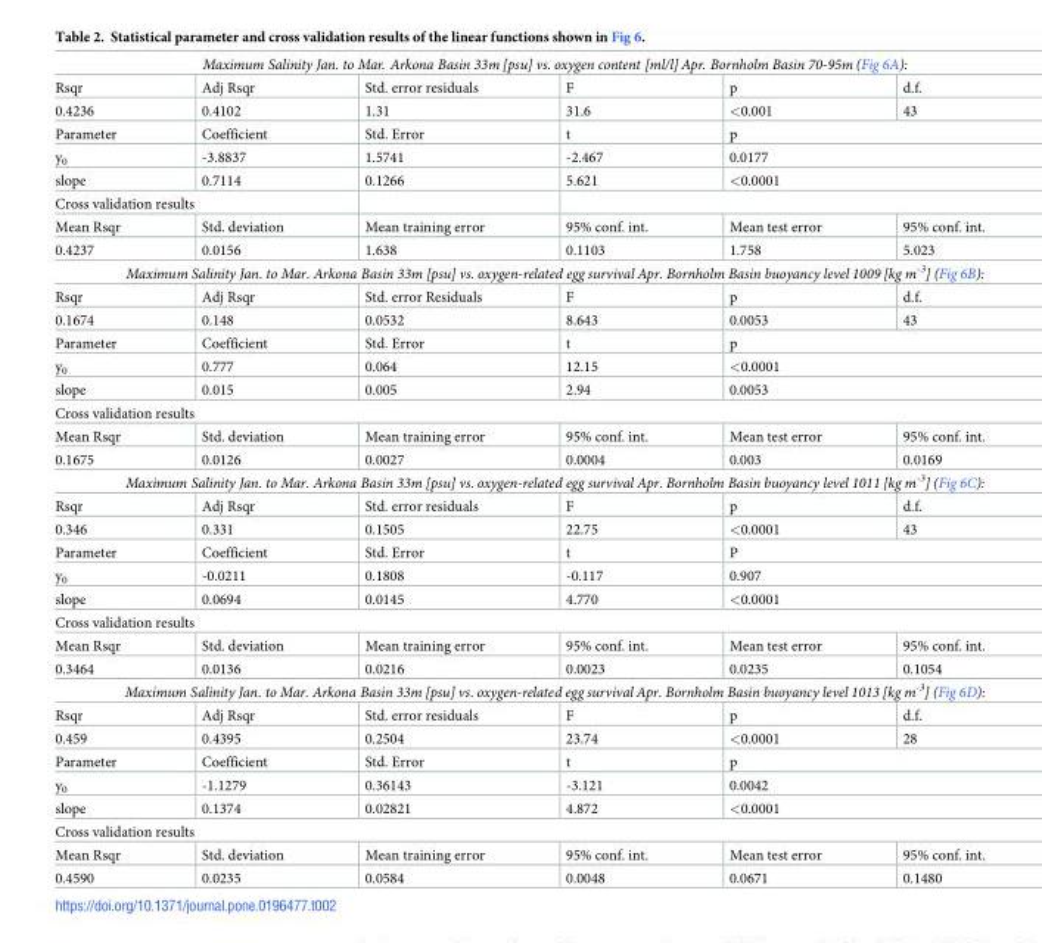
<table><tbody><tr><td colspan="6">Maximum Salinity Jan. to Mar. Arkona Basin 33m [psu] vs. oxygen content [ml/l] Apr. Bornholm Basin 70-95m (Fig 6A):</td></tr><tr><td>Rsqr</td><td>Adj Rsqr</td><td>Std. error residuals</td><td>F</td><td>p</td><td>d.f.</td></tr><tr><td>0.4236</td><td>0.4102</td><td>1.31</td><td>31.6</td><td>&lt;0.001</td><td>43</td></tr><tr><td>Parameter</td><td>Coefficient</td><td>Std. Error</td><td>t</td><td colspan="2">p</td></tr><tr><td>y<sub>0</sub></td><td>-3.8837</td><td>1.5741</td><td>-2.467</td><td colspan="2">0.0177</td></tr><tr><td>slope</td><td>0.7114</td><td>0.1266</td><td>5.621</td><td colspan="2">&lt;0.0001</td></tr><tr><td colspan="6">Cross validation results</td></tr><tr><td>Mean Rsqr</td><td>Std. deviation</td><td>Mean training error</td><td>95% conf. int.</td><td>Mean test error</td><td>95% conf. int.</td></tr><tr><td>0.4237</td><td>0.0156</td><td>1.638</td><td>0.1103</td><td>1.758</td><td>5.023</td></tr><tr><td colspan="6">Maximum Salinity Jan. to Mar. Arkona Basin 33m [psu] vs. oxygen-related egg survival Apr. Bornholm Basin buoyancy level 1009 [kg m<sup>-3</sup>] (Fig 6B):</td></tr><tr><td>Rsqr</td><td>Adj Rsqr</td><td>Std. error Residuals</td><td>F</td><td>p</td><td>d.f.</td></tr><tr><td>0.1674</td><td>0.148</td><td>0.0532</td><td>8.643</td><td>0.0053</td><td>43</td></tr><tr><td>Parameter</td><td>Coefficient</td><td>Std. Error</td><td>t</td><td colspan="2">p</td></tr><tr><td>y<sub>0</sub></td><td>0.777</td><td>0.064</td><td>12.15</td><td colspan="2">&lt;0.0001</td></tr><tr><td>slope</td><td>0.015</td><td>0.005</td><td>2.94</td><td colspan="2">0.0053</td></tr><tr><td colspan="6">Cross validation results</td></tr><tr><td>Mean Rsqr</td><td>Std. deviation</td><td>Mean training error</td><td>95% conf. int.</td><td>Mean test error</td><td>95% conf. int.</td></tr><tr><td>0.1675</td><td>0.0126</td><td>0.0027</td><td>0.0004</td><td>0.003</td><td>0.0169</td></tr><tr><td colspan="6">Maximum Salinity Jan. to Mar. Arkona Basin 33m [psu] vs. oxygen-related egg survival Apr. Bornholm Basin buoyancy level 1011 [kg m<sup>-3</sup>] (Fig 6C):</td></tr><tr><td>Rsqr</td><td>Adj Rsqr</td><td>Std. error residuals</td><td>F</td><td>p</td><td>d.f.</td></tr><tr><td>0.346</td><td>0.331</td><td>0.1505</td><td>22.75</td><td>&lt;0.0001</td><td>43</td></tr><tr><td>Parameter</td><td>Coefficient</td><td>Std. Error</td><td>t</td><td colspan="2">P</td></tr><tr><td>y<sub>0</sub></td><td>-0.0211</td><td>0.1808</td><td>-0.117</td><td colspan="2">0.907</td></tr><tr><td>slope</td><td>0.0694</td><td>0.0145</td><td>4.770</td><td colspan="2">&lt;0.0001</td></tr><tr><td colspan="6">Cross validation results</td></tr><tr><td>Mean Rsqr</td><td>Std. deviation</td><td>Mean training error</td><td>95% conf. int.</td><td>Mean test error</td><td>95% conf. int.</td></tr><tr><td>0.3464</td><td>0.0136</td><td>0.0216</td><td>0.0023</td><td>0.0235</td><td>0.1054</td></tr><tr><td colspan="6">Maximum Salinity Jan. to Mar. Arkona Basin 33m [psu] vs. oxygen-related egg survival Apr. Bornholm Basin buoyancy level 1013 [kg m<sup>-3</sup>] (Fig 6D):</td></tr><tr><td>Rsqr</td><td>Adj Rsqr</td><td>Std. error residuals</td><td>F</td><td>p</td><td>d.f.</td></tr><tr><td>0.459</td><td>0.4395</td><td>0.2504</td><td>23.74</td><td>&lt;0.0001</td><td>28</td></tr><tr><td>Parameter</td><td>Coefficient</td><td>Std. Error</td><td>t</td><td colspan="2">p</td></tr><tr><td>y<sub>0</sub></td><td>-1.1279</td><td>0.36143</td><td>-3.121</td><td colspan="2">0.0042</td></tr><tr><td>slope</td><td>0.1374</td><td>0.02821</td><td>4.872</td><td colspan="2">&lt;0.0001</td></tr><tr><td colspan="6">Cross validation results</td></tr><tr><td>Mean Rsqr</td><td>Std. deviation</td><td>Mean training error</td><td>95% conf. int.</td><td>Mean test error</td><td>95% conf. int.</td></tr><tr><td>0.4590</td><td>0.0235</td><td>0.0584</td><td>0.0048</td><td>0.0671</td><td>0.1480</td></tr></tbody></table>